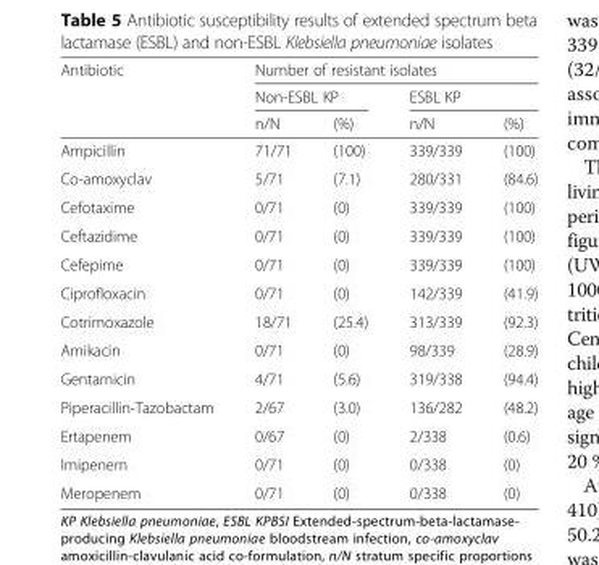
<table><thead><tr><td rowspan="3">Antibiotic</td><td colspan="4">Number of resistant isolates</td></tr><tr><td colspan="2">Non-ESBL KP</td><td colspan="2">ESBL KP</td></tr><tr><td>n/N</td><td>(%)</td><td>n/N</td><td>(%)</td></tr></thead><tbody><tr><td>Ampicillin</td><td>71/71</td><td>(100)</td><td>339/339</td><td>(100)</td></tr><tr><td>Co-amoxyclav</td><td>5/71</td><td>(7.1)</td><td>280/331</td><td>(84.6)</td></tr><tr><td>Cefotaxime</td><td>0/71</td><td>(0)</td><td>339/339</td><td>(100)</td></tr><tr><td>Ceftazidime</td><td>0/71</td><td>(0)</td><td>339/339</td><td>(100)</td></tr><tr><td>Cefepime</td><td>0/71</td><td>(0)</td><td>339/339</td><td>(100)</td></tr><tr><td>Ciprofloxacin</td><td>0/71</td><td>(0)</td><td>142/339</td><td>(41.9)</td></tr><tr><td>Cotrimoxazole</td><td>18/71</td><td>(25.4)</td><td>313/339</td><td>(92.3)</td></tr><tr><td>Amikacin</td><td>0/71</td><td>(0)</td><td>98/339</td><td>(28.9)</td></tr><tr><td>Gentamicin</td><td>4/71</td><td>(5.6)</td><td>319/338</td><td>(94.4)</td></tr><tr><td>Piperacillin-Tazobactam</td><td>2/67</td><td>(3.0)</td><td>136/282</td><td>(48.2)</td></tr><tr><td>Ertapenem</td><td>0/67</td><td>(0)</td><td>2/338</td><td>(0.6)</td></tr><tr><td>Imipenem</td><td>0/71</td><td>(0)</td><td>0/338</td><td>(0)</td></tr><tr><td>Meropenem</td><td>0/71</td><td>(0)</td><td>0/338</td><td>(0)</td></tr></tbody></table>